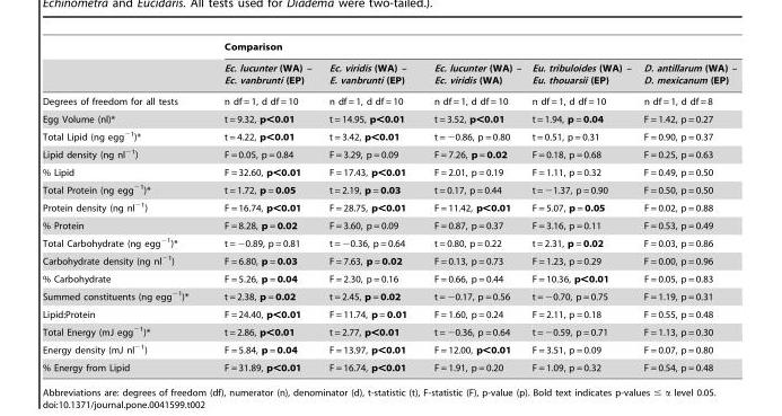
<table><thead><tr><td rowspan="2"></td><td colspan="5">Comparison</td></tr><tr><td>Ec. lucunter (WA) – Ec. vanbrunti (EP)</td><td>Ec. viridis (WA) – E. vanbrunti (EP)</td><td>Ec. lucunter (WA) – Ec. viridis (WA)</td><td>Eu. tribuloides (WA) – Eu. thouarsii (EP)</td><td>D. antillarum (WA) – D. mexicanum (EP)</td></tr></thead><tbody><tr><td>Degrees of freedom for all tests</td><td>n df = 1, d df = 10</td><td>n df = 1, d df = 10</td><td>n df = 1, d df = 10</td><td>n df = 1, d df = 10</td><td>n df = 1, d df = 8</td></tr><tr><td>Egg Volume (nl)*</td><td>t = 9.32, p&lt;0.01</td><td>t = 14.95, p&lt;0.01</td><td>t = 3.52, p&lt;0.01</td><td>t = 1.94, p = 0.04</td><td>F = 1.42, p = 0.27</td></tr><tr><td>Total Lipid (ng egg<sup>−1</sup>)*</td><td>t = 4.22, p&lt;0.01</td><td>t = 3.42, p&lt;0.01</td><td>t = −0.86, p = 0.80</td><td>t = 0.51, p = 0.31</td><td>F = 0.90, p = 0.37</td></tr><tr><td>Lipid density (ng nl<sup>−1</sup>)</td><td>F = 0.05, p = 0.84</td><td>F = 3.29, p = 0.09</td><td>F = 7.26, p = 0.02</td><td>F = 0.18, p = 0.68</td><td>F = 0.25, p = 0.63</td></tr><tr><td>% Lipid</td><td>F = 32.60, p&lt;0.01</td><td>F = 17.43, p&lt;0.01</td><td>F = 2.01, p = 0.19</td><td>F = 1.11, p = 0.32</td><td>F = 0.49, p = 0.50</td></tr><tr><td>Total Protein (ng egg<sup>−1</sup>)*</td><td>t = 1.72, p = 0.05</td><td>t = 2.19, p = 0.03</td><td>t = 0.17, p = 0.44</td><td>t = −1.37, p = 0.90</td><td>F = 0.50, p = 0.50</td></tr><tr><td>Protein density (ng nl<sup>−1</sup>)</td><td>F = 16.74, p&lt;0.01</td><td>F = 28.75, p&lt;0.01</td><td>F = 11.42, p&lt;0.01</td><td>F = 5.07, p = 0.05</td><td>F = 0.02, p = 0.88</td></tr><tr><td>% Protein</td><td>F = 8.28, p = 0.02</td><td>F = 3.60, p = 0.09</td><td>F = 0.87, p = 0.37</td><td>F = 3.16, p = 0.11</td><td>F = 0.53, p = 0.49</td></tr><tr><td>Total Carbohydrate (ng egg<sup>−1</sup>)*</td><td>t = −0.89, p = 0.81</td><td>t = −0.36, p = 0.64</td><td>t = 0.80, p = 0.22</td><td>t = 2.31, p = 0.02</td><td>F = 0.03, p = 0.86</td></tr><tr><td>Carbohydrate density (ng nl<sup>−1</sup>)</td><td>F = 6.80, p = 0.03</td><td>F = 7.63, p = 0.02</td><td>F = 0.13, p = 0.73</td><td>F = 1.23, p = 0.29</td><td>F = 0.00, p = 0.96</td></tr><tr><td>% Carbohydrate</td><td>F = 5.26, p = 0.04</td><td>F = 2.30, p = 0.16</td><td>F = 0.66, p = 0.44</td><td>F = 10.36, p&lt;0.01</td><td>F = 0.05, p = 0.83</td></tr><tr><td>Summed constituents (ng egg<sup>−1</sup>)*</td><td>t = 2.38, p = 0.02</td><td>t = 2.45, p = 0.02</td><td>t = −0.17, p = 0.56</td><td>t = −0.70, p = 0.75</td><td>F = 1.19, p = 0.31</td></tr><tr><td>Lipid:Protein</td><td>F = 24.40, p&lt;0.01</td><td>F = 11.74, p = 0.01</td><td>F = 1.60, p = 0.24</td><td>F = 2.11, p = 0.18</td><td>F = 0.55, p = 0.48</td></tr><tr><td>Total Energy (mJ egg<sup>−1</sup>)*</td><td>t = 2.86, p&lt;0.01</td><td>t = 2.77, p&lt;0.01</td><td>t = −0.36, p = 0.64</td><td>t = −0.59, p = 0.71</td><td>F = 1.13, p = 0.30</td></tr><tr><td>Energy density (mJ nl<sup>−1</sup>)</td><td>F = 5.84, p = 0.04</td><td>F = 13.97, p&lt;0.01</td><td>F = 12.00, p&lt;0.01</td><td>F = 3.51, p = 0.09</td><td>F = 0.07, p = 0.80</td></tr><tr><td>% Energy from Lipid</td><td>F = 31.89, p&lt;0.01</td><td>F = 16.74, p&lt;0.01</td><td>F = 1.91, p = 0.20</td><td>F = 1.09, p = 0.32</td><td>F = 0.54, p = 0.48</td></tr></tbody></table>